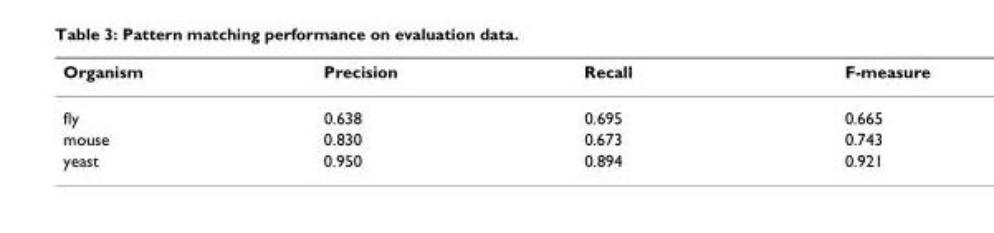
<table><thead><tr><td>Organism</td><td>Precision</td><td>Recall</td><td>F-measure</td></tr></thead><tbody><tr><td>fly</td><td>0.638</td><td>0.695</td><td>0.665</td></tr><tr><td>mouse</td><td>0.830</td><td>0.673</td><td>0.743</td></tr><tr><td>yeast</td><td>0.950</td><td>0.894</td><td>0.921</td></tr></tbody></table>